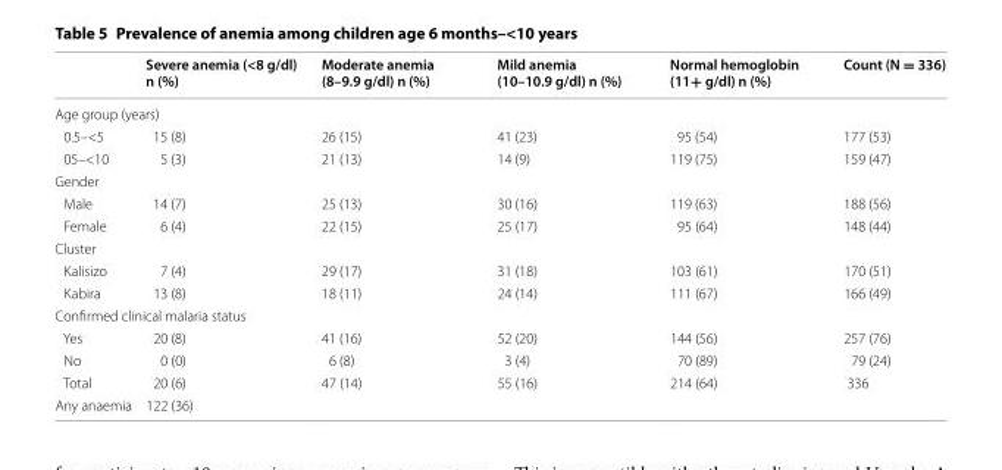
<table><thead><tr><td></td><td>Severe anemia (&lt;8 g/dl) n (%)</td><td>Moderate anemia (8–9.9 g/dl) n (%)</td><td>Mild anemia (10–10.9 g/dl) n (%)</td><td>Normal hemoglobin (11+ g/dl) n (%)</td><td>Count (N = 336)</td></tr></thead><tbody><tr><td colspan="6">Age group (years)</td></tr><tr><td>0.5–&lt;5</td><td>15 (8)</td><td>26 (15)</td><td>41 (23)</td><td>95 (54)</td><td>177 (53)</td></tr><tr><td>05–&lt;10</td><td>5 (3)</td><td>21 (13)</td><td>14 (9)</td><td>119 (75)</td><td>159 (47)</td></tr><tr><td colspan="6">Gender</td></tr><tr><td>Male</td><td>14 (7)</td><td>25 (13)</td><td>30 (16)</td><td>119 (63)</td><td>188 (56)</td></tr><tr><td>Female</td><td>6 (4)</td><td>22 (15)</td><td>25 (17)</td><td>95 (64)</td><td>148 (44)</td></tr><tr><td colspan="6">Cluster</td></tr><tr><td>Kalisizo</td><td>7 (4)</td><td>29 (17)</td><td>31 (18)</td><td>103 (61)</td><td>170 (51)</td></tr><tr><td>Kabira</td><td>13 (8)</td><td>18 (11)</td><td>24 (14)</td><td>111 (67)</td><td>166 (49)</td></tr><tr><td colspan="6">Confirmed clinical malaria status</td></tr><tr><td>Yes</td><td>20 (8)</td><td>41 (16)</td><td>52 (20)</td><td>144 (56)</td><td>257 (76)</td></tr><tr><td>No</td><td>0 (0)</td><td>6 (8)</td><td>3 (4)</td><td>70 (89)</td><td>79 (24)</td></tr><tr><td>Total</td><td>20 (6)</td><td>47 (14)</td><td>55 (16)</td><td>214 (64)</td><td>336</td></tr><tr><td>Any anaemia</td><td colspan="5">122 (36)</td></tr></tbody></table>